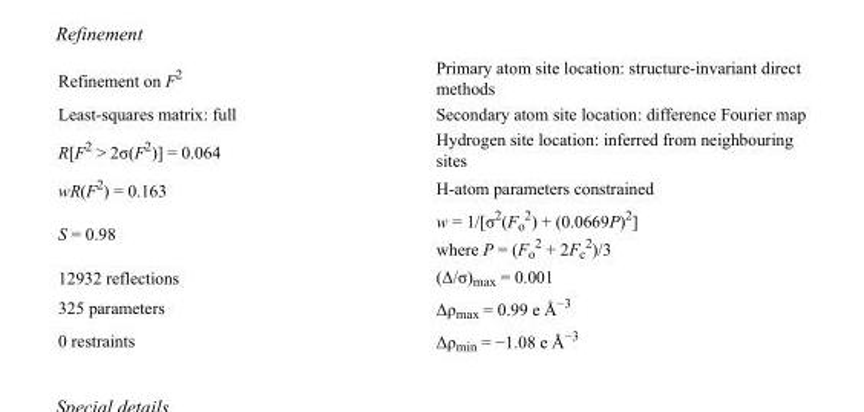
<table><tbody><tr><td>Refinement on F<sup>2</sup></td><td>Primary atom site location: structure-invariant direct methods</td></tr><tr><td>Least-squares matrix: full</td><td>Secondary atom site location: difference Fourier map</td></tr><tr><td>R[F<sup>2</sup> &gt; 2σ(F<sup>2</sup>)] = 0.064</td><td>Hydrogen site location: inferred from neighbouring sites</td></tr><tr><td>wR(F<sup>2</sup>) = 0.163</td><td>H-atom parameters constrained</td></tr><tr><td>S = 0.98</td><td>w = 1/[σ<sup>2</sup>(F<sub>o</sub> <sup>2</sup>) + (0.0669P)<sup>2</sup>] where P = (F<sub>o</sub> <sup>2</sup> + 2F<sub>c</sub> <sup>2</sup>)/3</td></tr><tr><td>12932 reflections</td><td>(Δ/σ)<sub>max</sub> = 0.001</td></tr><tr><td>325 parameters</td><td>Δρ<sub>max</sub> = 0.99 e Å<sup>−3</sup></td></tr><tr><td>0 restraints</td><td>Δρ<sub>min</sub> = −1.08 e Å<sup>−3</sup></td></tr></tbody></table>